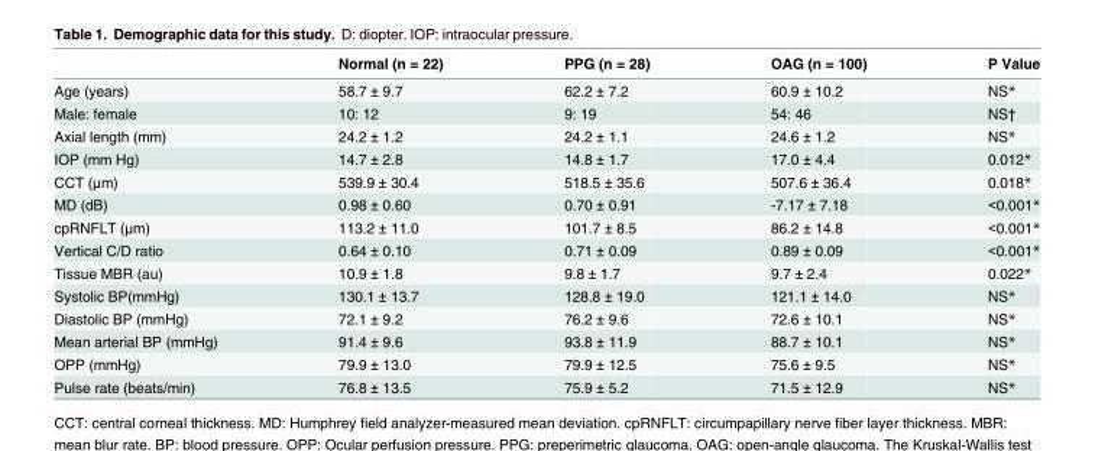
<table><thead><tr><td></td><td>Normal (n = 22)</td><td>PPG (n = 28)</td><td>OAG (n = 100)</td><td>P Value</td></tr></thead><tbody><tr><td>Age (years)</td><td>58.7 ± 9.7</td><td>62.2 ± 7.2</td><td>60.9 ± 10.2</td><td>NS*</td></tr><tr><td>Male: female</td><td>10: 12</td><td>9: 19</td><td>54: 46</td><td>NS†</td></tr><tr><td>Axial length (mm)</td><td>24.2 ± 1.2</td><td>24.2 ± 1.1</td><td>24.6 ± 1.2</td><td>NS*</td></tr><tr><td>IOP (mm Hg)</td><td>14.7 ± 2.8</td><td>14.8 ± 1.7</td><td>17.0 ± 4.4</td><td>0.012*</td></tr><tr><td>CCT (μm)</td><td>539.9 ± 30.4</td><td>518.5 ± 35.6</td><td>507.6 ± 36.4</td><td>0.018*</td></tr><tr><td>MD (dB)</td><td>0.98 ± 0.60</td><td>0.70 ± 0.91</td><td>-7.17 ± 7.18</td><td>&lt;0.001*</td></tr><tr><td>cpRNFLT (μm)</td><td>113.2 ± 11.0</td><td>101.7 ± 8.5</td><td>86.2 ± 14.8</td><td>&lt;0.001*</td></tr><tr><td>Vertical C/D ratio</td><td>0.64 ± 0.10</td><td>0.71 ± 0.09</td><td>0.89 ± 0.09</td><td>&lt;0.001*</td></tr><tr><td>Tissue MBR (au)</td><td>10.9 ± 1.8</td><td>9.8 ± 1.7</td><td>9.7 ± 2.4</td><td>0.022*</td></tr><tr><td>Systolic BP(mmHg)</td><td>130.1 ± 13.7</td><td>128.8 ± 19.0</td><td>121.1 ± 14.0</td><td>NS*</td></tr><tr><td>Diastolic BP (mmHg)</td><td>72.1 ± 9.2</td><td>76.2 ± 9.6</td><td>72.6 ± 10.1</td><td>NS*</td></tr><tr><td>Mean arterial BP (mmHg)</td><td>91.4 ± 9.6</td><td>93.8 ± 11.9</td><td>88.7 ± 10.1</td><td>NS*</td></tr><tr><td>OPP (mmHg)</td><td>79.9 ± 13.0</td><td>79.9 ± 12.5</td><td>75.6 ± 9.5</td><td>NS*</td></tr><tr><td>Pulse rate (beats/min)</td><td>76.8 ± 13.5</td><td>75.9 ± 5.2</td><td>71.5 ± 12.9</td><td>NS*</td></tr></tbody></table>